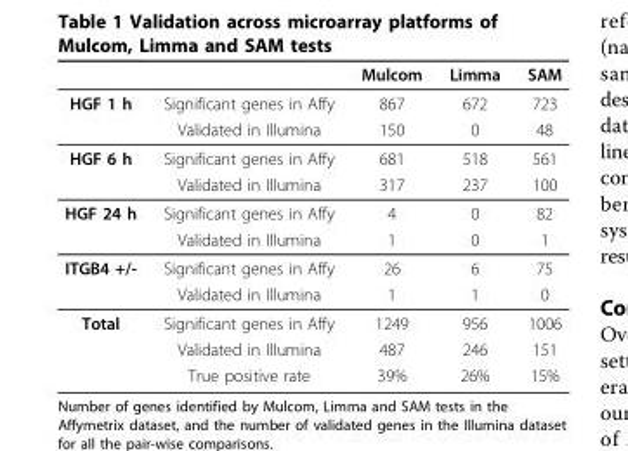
<table><thead><tr><td></td><td></td><td>Mulcom</td><td>Limma</td><td>SAM</td></tr></thead><tbody><tr><td rowspan="2">HGF 1 h</td><td>Significant genes in Affy</td><td>867</td><td>672</td><td>723</td></tr><tr><td>Validated in Illumina</td><td>150</td><td>0</td><td>48</td></tr><tr><td rowspan="2">HGF 6 h</td><td>Significant genes in Affy</td><td>681</td><td>518</td><td>561</td></tr><tr><td>Validated in Illumina</td><td>317</td><td>237</td><td>100</td></tr><tr><td rowspan="2">HGF 24 h</td><td>Significant genes in Affy</td><td>4</td><td>0</td><td>82</td></tr><tr><td>Validated in Illumina</td><td>1</td><td>0</td><td>1</td></tr><tr><td rowspan="2">ITGB4 +/-</td><td>Significant genes in Affy</td><td>26</td><td>6</td><td>75</td></tr><tr><td>Validated in Illumina</td><td>1</td><td>1</td><td>0</td></tr><tr><td rowspan="3">Total</td><td>Significant genes in Affy</td><td>1249</td><td>956</td><td>1006</td></tr><tr><td>Validated in Illumina</td><td>487</td><td>246</td><td>151</td></tr><tr><td>True positive rate</td><td>39%</td><td>26%</td><td>15%</td></tr></tbody></table>